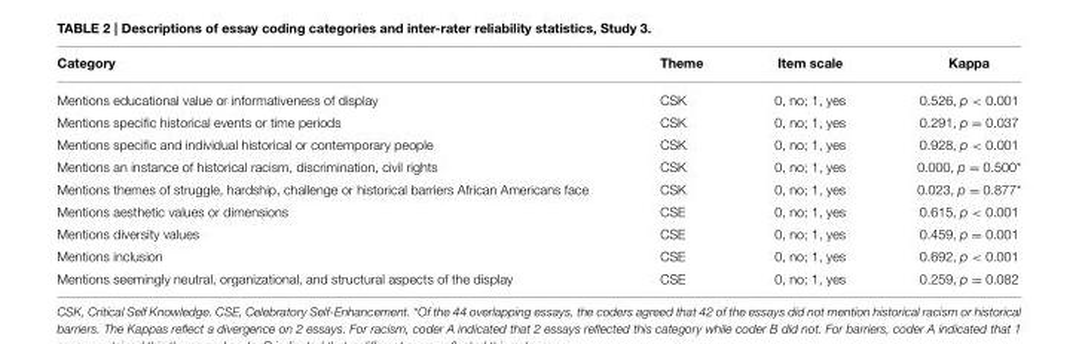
<table><thead><tr><td>Category</td><td>Theme</td><td>Item scale</td><td>Kappa</td></tr></thead><tbody><tr><td>Mentions educational value or informativeness of display</td><td>CSK</td><td>0, no; 1, yes</td><td>0.526, p &lt; 0.001</td></tr><tr><td>Mentions specific historical events or time periods</td><td>CSK</td><td>0, no; 1, yes</td><td>0.291, p = 0.037</td></tr><tr><td>Mentions specific and individual historical or contemporary people</td><td>CSK</td><td>0, no; 1, yes</td><td>0.928, p &lt; 0.001</td></tr><tr><td>Mentions an instance of historical racism, discrimination, civil rights</td><td>CSK</td><td>0, no; 1, yes</td><td>0.000, p = 0.500*</td></tr><tr><td>Mentions themes of struggle, hardship, challenge or historical barriers African Americans face</td><td>CSK</td><td>0, no; 1, yes</td><td>0.023, p = 0.877*</td></tr><tr><td>Mentions aesthetic values or dimensions</td><td>CSE</td><td>0, no; 1, yes</td><td>0.615, p &lt; 0.001</td></tr><tr><td>Mentions diversity values</td><td>CSE</td><td>0, no; 1, yes</td><td>0.459, p = 0.001</td></tr><tr><td>Mentions inclusion</td><td>CSE</td><td>0, no; 1, yes</td><td>0.692, p &lt; 0.001</td></tr><tr><td>Mentions seemingly neutral, organizational, and structural aspects of the display</td><td>CSE</td><td>0, no; 1, yes</td><td>0.259, p = 0.082</td></tr></tbody></table>